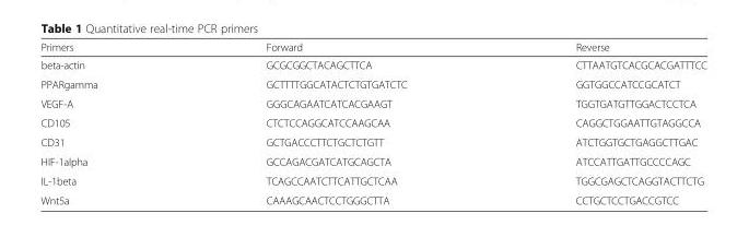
<table><thead><tr><td>Primers</td><td>Forward</td><td>Reverse</td></tr></thead><tbody><tr><td>beta-actin</td><td>GCGCGGCTACAGCTTCA</td><td>CTTAATGTCACGCACGATTTCC</td></tr><tr><td>PPARgamma</td><td>GCTTTTGGCATACTCTGTGATCTC</td><td>GGTGGCCATCCGCATCT</td></tr><tr><td>VEGF-A</td><td>GGGCAGAATCATCACGAAGT</td><td>TGGTGATGTTGGACTCCTCA</td></tr><tr><td>CD105</td><td>CTCTCCAGGCATCCAAGCAA</td><td>CAGGCTGGAATTGTAGGCCA</td></tr><tr><td>CD31</td><td>GCTGACCCTTCTGCTCTGTT</td><td>ATCTGGTGCTGAGGCTTGAC</td></tr><tr><td>HIF-1alpha</td><td>GCCAGACGATCATGCAGCTA</td><td>ATCCATTGATTGCCCCAGC</td></tr><tr><td>IL-1beta</td><td>TCAGCCAATCTTCATTGCTCAA</td><td>TGGCGAGCTCAGGTACTTCTG</td></tr><tr><td>Wnt5a</td><td>CAAAGCAACTCCTGGGCTTA</td><td>CCTGCTCCTGACCGTCC</td></tr></tbody></table>